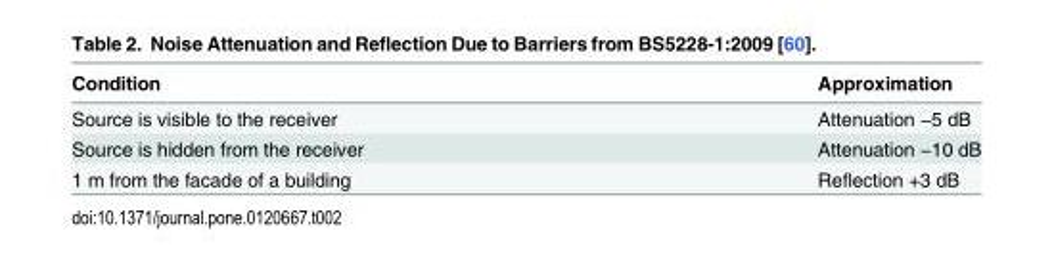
<table><thead><tr><td>Condition</td><td>Approximation</td></tr></thead><tbody><tr><td>Source is visible to the receiver</td><td>Attenuation −5 dB</td></tr><tr><td>Source is hidden from the receiver</td><td>Attenuation −10 dB</td></tr><tr><td>1 m from the facade of a building</td><td>Reflection +3 dB</td></tr></tbody></table>